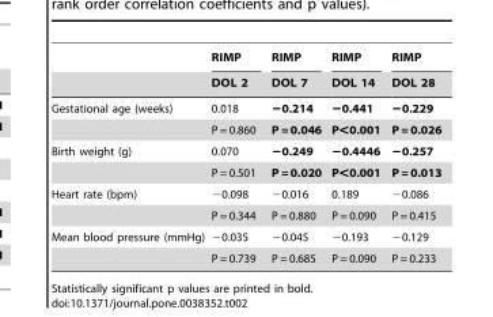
<table><thead><tr><td rowspan="2"></td><td rowspan="2">RIMP DOL 2</td><td rowspan="2">RIMP DOL 7</td><td rowspan="2">RIMP DOL 14</td><td rowspan="2">RIMP DOL 28</td></tr><tr></tr></thead><tbody><tr><td rowspan="2">Gestational age (weeks)</td><td>0.018</td><td>−0.214</td><td>−0.441</td><td>−0.229</td></tr><tr><td>P = 0.860</td><td>P = 0.046</td><td>P&lt;0.001</td><td>P = 0.026</td></tr><tr><td rowspan="2">Birth weight (g)</td><td>0.070</td><td>−0.249</td><td>−0.4446</td><td>−0.257</td></tr><tr><td>P = 0.501</td><td>P = 0.020</td><td>P&lt;0.001</td><td>P = 0.013</td></tr><tr><td rowspan="2">Heart rate (bpm)</td><td>−0.098</td><td>−0.016</td><td>0.189</td><td>−0.086</td></tr><tr><td>P = 0.344</td><td>P = 0.880</td><td>P = 0.090</td><td>P = 0.415</td></tr><tr><td rowspan="2">Mean blood pressure (mmHg)</td><td>−0.035</td><td>−0.045</td><td>−0.193</td><td>−0.129</td></tr><tr><td>P = 0.739</td><td>P = 0.685</td><td>P = 0.090</td><td>P = 0.233</td></tr></tbody></table>